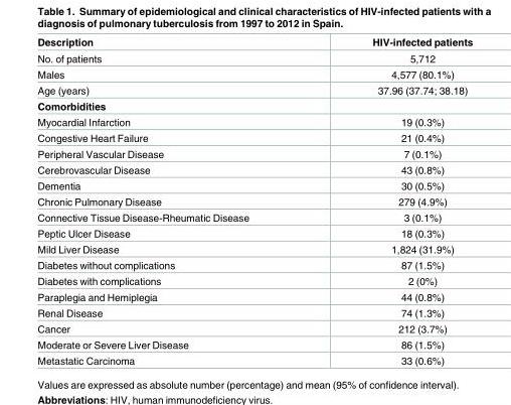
<table><thead><tr><td>Description</td><td>HIV-infected patients</td></tr></thead><tbody><tr><td>No. of patients</td><td>5,712</td></tr><tr><td>Males</td><td>4,577 (80.1%)</td></tr><tr><td>Age (years)</td><td>37.96 (37.74; 38.18)</td></tr><tr><td colspan="2">Comorbidities</td></tr><tr><td>Myocardial Infarction</td><td>19 (0.3%)</td></tr><tr><td>Congestive Heart Failure</td><td>21 (0.4%)</td></tr><tr><td>Peripheral Vascular Disease</td><td>7 (0.1%)</td></tr><tr><td>Cerebrovascular Disease</td><td>43 (0.8%)</td></tr><tr><td>Dementia</td><td>30 (0.5%)</td></tr><tr><td>Chronic Pulmonary Disease</td><td>279 (4.9%)</td></tr><tr><td>Connective Tissue Disease-Rheumatic Disease</td><td>3 (0.1%)</td></tr><tr><td>Peptic Ulcer Disease</td><td>18 (0.3%)</td></tr><tr><td>Mild Liver Disease</td><td>1,824 (31.9%)</td></tr><tr><td>Diabetes without complications</td><td>87 (1.5%)</td></tr><tr><td>Diabetes with complications</td><td>2 (0%)</td></tr><tr><td>Paraplegia and Hemiplegia</td><td>44 (0.8%)</td></tr><tr><td>Renal Disease</td><td>74 (1.3%)</td></tr><tr><td>Cancer</td><td>212 (3.7%)</td></tr><tr><td>Moderate or Severe Liver Disease</td><td>86 (1.5%)</td></tr><tr><td>Metastatic Carcinoma</td><td>33 (0.6%)</td></tr></tbody></table>